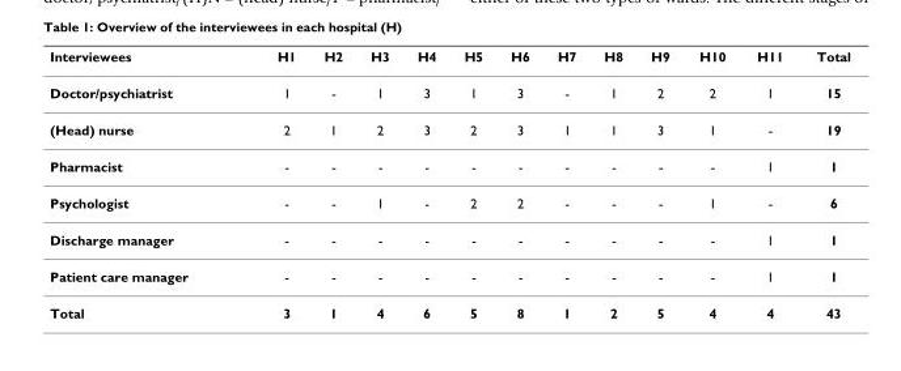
<table><thead><tr><td>Interviewees</td><td>H1</td><td>H2</td><td>H3</td><td>H4</td><td>H5</td><td>H6</td><td>H7</td><td>H8</td><td>H9</td><td>H10</td><td>H11</td><td>Total</td></tr></thead><tbody><tr><td>Doctor/psychiatrist</td><td>1</td><td>-</td><td>1</td><td>3</td><td>1</td><td>3</td><td>-</td><td>1</td><td>2</td><td>2</td><td>1</td><td>15</td></tr><tr><td>(Head) nurse</td><td>2</td><td>1</td><td>2</td><td>3</td><td>2</td><td>3</td><td>1</td><td>1</td><td>3</td><td>1</td><td>-</td><td>19</td></tr><tr><td>Pharmacist</td><td>-</td><td>-</td><td>-</td><td>-</td><td>-</td><td>-</td><td>-</td><td>-</td><td>-</td><td>-</td><td>1</td><td>1</td></tr><tr><td>Psychologist</td><td>-</td><td>-</td><td>1</td><td>-</td><td>2</td><td>2</td><td>-</td><td>-</td><td>-</td><td>1</td><td>-</td><td>6</td></tr><tr><td>Discharge manager</td><td>-</td><td>-</td><td>-</td><td>-</td><td>-</td><td>-</td><td>-</td><td>-</td><td>-</td><td>-</td><td>1</td><td>1</td></tr><tr><td>Patient care manager</td><td>-</td><td>-</td><td>-</td><td>-</td><td>-</td><td>-</td><td>-</td><td>-</td><td>-</td><td>-</td><td>1</td><td>1</td></tr><tr><td>Total</td><td>3</td><td>1</td><td>4</td><td>6</td><td>5</td><td>8</td><td>1</td><td>2</td><td>5</td><td>4</td><td>4</td><td>43</td></tr></tbody></table>